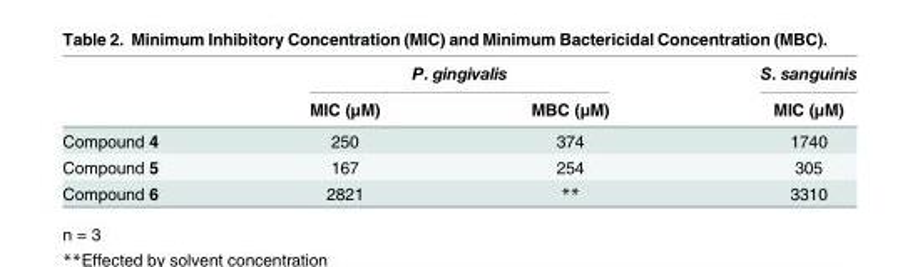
<table><thead><tr><td rowspan="2"></td><td colspan="2">P. gingivalis</td><td rowspan="2">S. sanguinis MIC (μM)</td></tr><tr><td>MIC (μM)</td><td>MBC (μM)</td></tr></thead><tbody><tr><td>Compound 4</td><td>250</td><td>374</td><td>1740</td></tr><tr><td>Compound 5</td><td>167</td><td>254</td><td>305</td></tr><tr><td>Compound 6</td><td>2821</td><td>**</td><td>3310</td></tr></tbody></table>